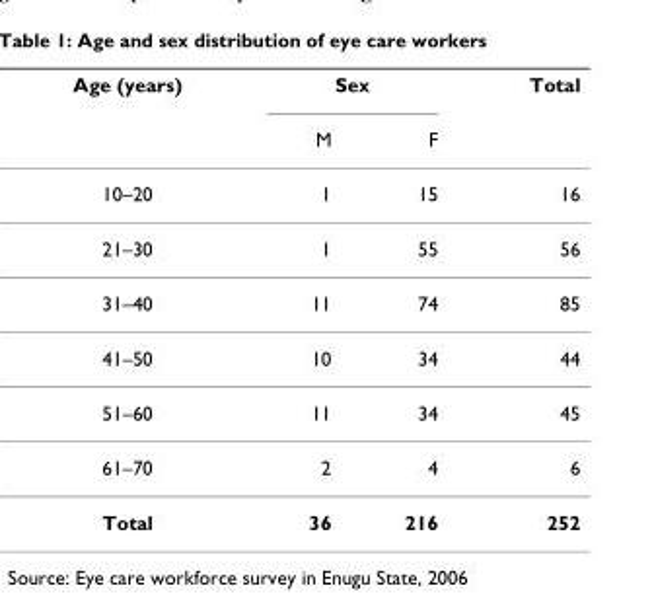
<table><thead><tr><td rowspan="2">Age (years)</td><td colspan="2">Sex</td><td rowspan="2">Total</td></tr><tr><td>M</td><td>F</td></tr></thead><tbody><tr><td>10–20</td><td>1</td><td>15</td><td>16</td></tr><tr><td>21–30</td><td>1</td><td>55</td><td>56</td></tr><tr><td>31–40</td><td>11</td><td>74</td><td>85</td></tr><tr><td>41–50</td><td>10</td><td>34</td><td>44</td></tr><tr><td>51–60</td><td>11</td><td>34</td><td>45</td></tr><tr><td>61–70</td><td>2</td><td>4</td><td>6</td></tr><tr><td>Total</td><td>36</td><td>216</td><td>252</td></tr></tbody></table>